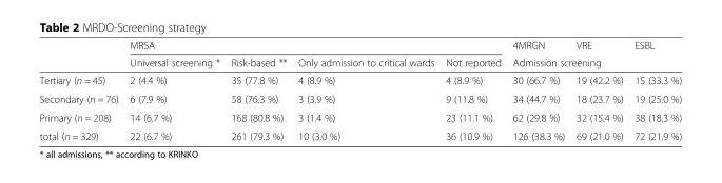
<table><thead><tr><td rowspan="2"></td><td colspan="4">MRSA</td><td>4MRGN</td><td>VRE</td><td>ESBL</td></tr><tr><td>Universal screening *</td><td>Risk-based **</td><td>Only admission to critical wards</td><td>Not reported</td><td colspan="3">Admission screening</td></tr></thead><tbody><tr><td>Tertiary (n = 45)</td><td>2 (4.4 %)</td><td>35 (77.8 %)</td><td>4 (8.9 %)</td><td>4 (8.9 %)</td><td>30 (66.7 %)</td><td>19 (42.2 %)</td><td>15 (33.3 %)</td></tr><tr><td>Secondary (n = 76)</td><td>6 (7.9 %)</td><td>58 (76.3 %)</td><td>3 (3.9 %)</td><td>9 (11.8 %)</td><td>34 (44.7 %)</td><td>18 (23.7 %)</td><td>19 (25.0 %)</td></tr><tr><td>Primary (n = 208)</td><td>14 (6.7 %)</td><td>168 (80.8 %)</td><td>3 (1.4 %)</td><td>23 (11.1 %)</td><td>62 (29.8 %)</td><td>32 (15.4 %)</td><td>38 (18.3 %)</td></tr><tr><td>total (n = 329)</td><td>22 (6.7 %)</td><td>261 (79.3 %)</td><td>10 (3.0 %)</td><td>36 (10.9 %)</td><td>126 (38.3 %)</td><td>69 (21.0 %)</td><td>72 (21.9 %)</td></tr></tbody></table>